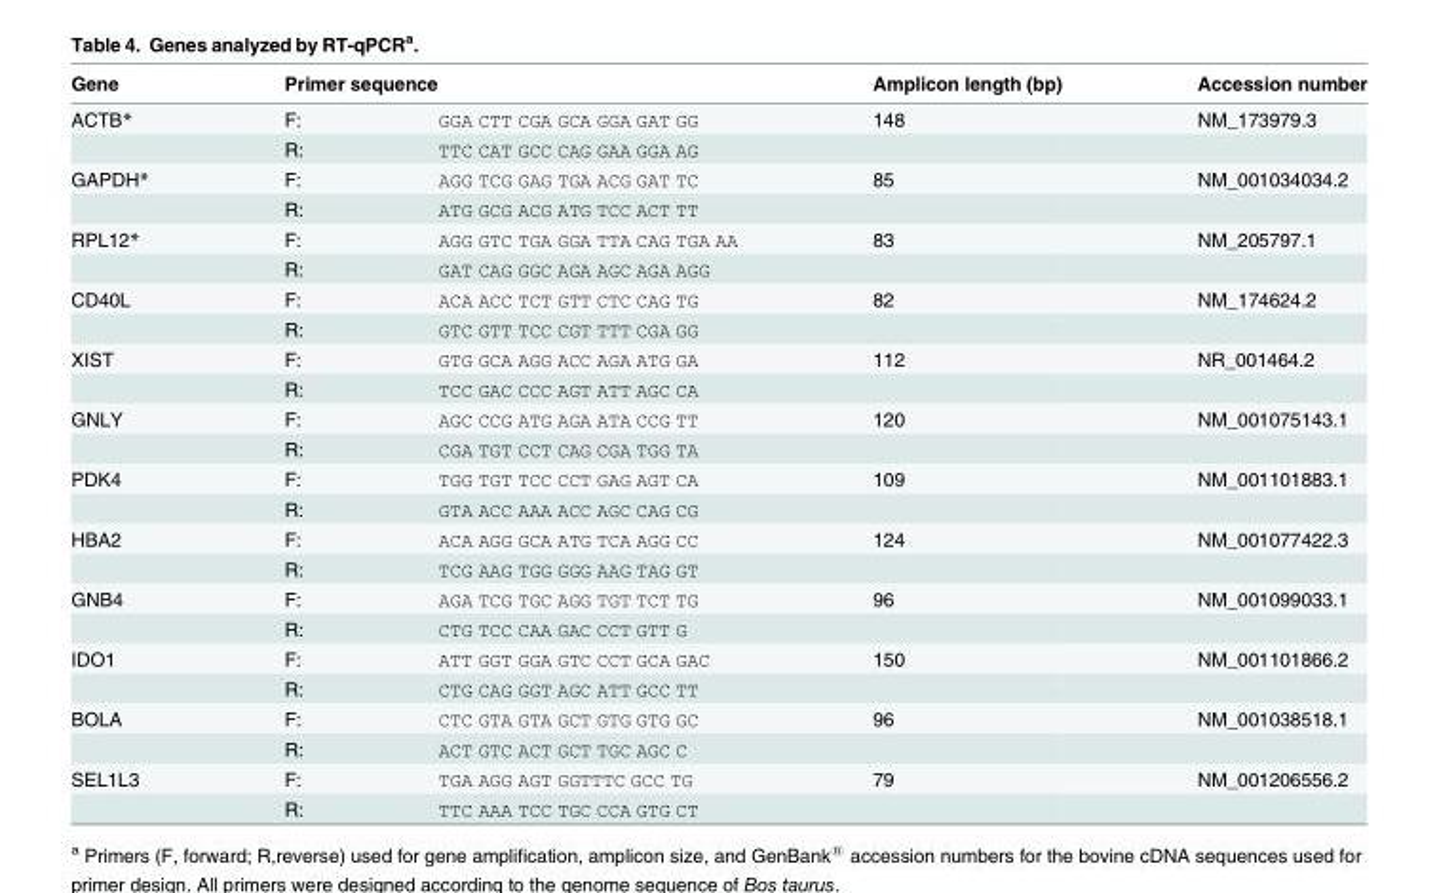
<table><thead><tr><td rowspan="2">Gene ACTB*</td><td colspan="2">Primer sequence</td><td rowspan="2">Amplicon length (bp) 148</td><td rowspan="2">Accession number NM_173979.3</td></tr><tr><td>F:</td><td>GGA CTT CGA GCA GGA GAT GG</td></tr></thead><tbody><tr><td></td><td>R:</td><td>TTC CAT GCC CAG GAA GGA AG</td><td></td><td></td></tr><tr><td rowspan="2">GAPDH*</td><td>F:</td><td>AGG TCG GAG TGA ACG GAT TC</td><td>85</td><td>NM_001034034.2</td></tr><tr><td>R:</td><td>ATG GCG ACG ATG TCC ACT TT</td><td></td><td></td></tr><tr><td rowspan="2">RPL12*</td><td>F:</td><td>AGG GTC TGA GGA TTA CAG TGA AA</td><td>83</td><td>NM_205797.1</td></tr><tr><td>R:</td><td>GAT CAG GGC AGA AGC AGA AGG</td><td></td><td></td></tr><tr><td rowspan="2">CD40L</td><td>F:</td><td>ACA ACC TCT GTT CTC CAG TG</td><td>82</td><td>NM_174624.2</td></tr><tr><td>R:</td><td>GTC GTT TCC CGT TTT CGA GG</td><td></td><td></td></tr><tr><td rowspan="2">XIST</td><td>F:</td><td>GTG GCA AGG ACC AGA ATG GA</td><td>112</td><td>NR_001464.2</td></tr><tr><td>R:</td><td>TCC GAC CCC AGT ATT AGC CA</td><td></td><td></td></tr><tr><td rowspan="2">GNLY</td><td>F:</td><td>AGC CCG ATG AGA ATA CCG TT</td><td>120</td><td>NM_001075143.1</td></tr><tr><td>R:</td><td>CGA TGT CCT CAG CGA TGG TA</td><td></td><td></td></tr><tr><td rowspan="2">PDK4</td><td>F:</td><td>TGG TGT TCC CCT GAG AGT CA</td><td>109</td><td>NM_001101883.1</td></tr><tr><td>R:</td><td>GTA ACC AAA ACC AGC CAG CG</td><td></td><td></td></tr><tr><td rowspan="2">HBA2</td><td>F:</td><td>ACA AGG GCA ATG TCA AGG CC</td><td>124</td><td>NM_001077422.3</td></tr><tr><td>R:</td><td>TCG AAG TGG GGG AAG TAG GT</td><td></td><td></td></tr><tr><td rowspan="2">GNB4</td><td>F:</td><td>AGA TCG TGC AGG TGT TCT TG</td><td>96</td><td>NM_001099033.1</td></tr><tr><td>R:</td><td>CTG TCC CAA GAC CCT GTT G</td><td></td><td></td></tr><tr><td rowspan="2">IDO1</td><td>F:</td><td>ATT GGT GGA GTC CCT GCA GAC</td><td>150</td><td>NM_001101866.2</td></tr><tr><td>R:</td><td>CTG CAG GGT AGC ATT GCC TT</td><td></td><td></td></tr><tr><td rowspan="2">BOLA</td><td>F:</td><td>CTC GTA GTA GCT GTG GTG GC</td><td>96</td><td>NM_001038518.1</td></tr><tr><td>R:</td><td>ACT GTC ACT GCT TGC AGC C</td><td></td><td></td></tr><tr><td rowspan="2">SEL1L3</td><td>F:</td><td>TGA AGG AGT GGTTTC GCC TG</td><td>79</td><td>NM_001206556.2</td></tr><tr><td>R:</td><td>TTC AAA TCC TGC CCA GTG CT</td><td></td><td></td></tr></tbody></table>